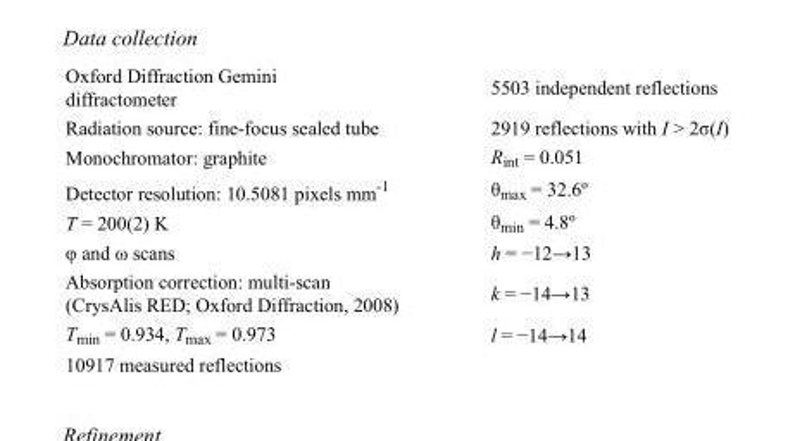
<table><tbody><tr><td>Oxford Diffraction Gemini diffractometer</td><td>5503 independent reflections</td></tr><tr><td>Radiation source: fine-focus sealed tube</td><td>2919 reflections with I &gt; 2σ(I)</td></tr><tr><td>Monochromator: graphite</td><td>R<sub>int</sub> = 0.051</td></tr><tr><td>Detector resolution: 10.5081 pixels mm<sup>-1</sup></td><td>θ<sub>max</sub> = 32.6º</td></tr><tr><td>T = 200(2) K</td><td>θ<sub>min</sub> = 4.8º</td></tr><tr><td>φ and ω scans</td><td>h = −12→13</td></tr><tr><td>Absorption correction: multi-scan (CrysAlis RED; Oxford Diffraction, 2008)</td><td>k = −14→13</td></tr><tr><td>T<sub>min</sub> = 0.934, T<sub>max</sub> = 0.973</td><td>l = −14→14</td></tr><tr><td>10917 measured reflections</td><td></td></tr></tbody></table>